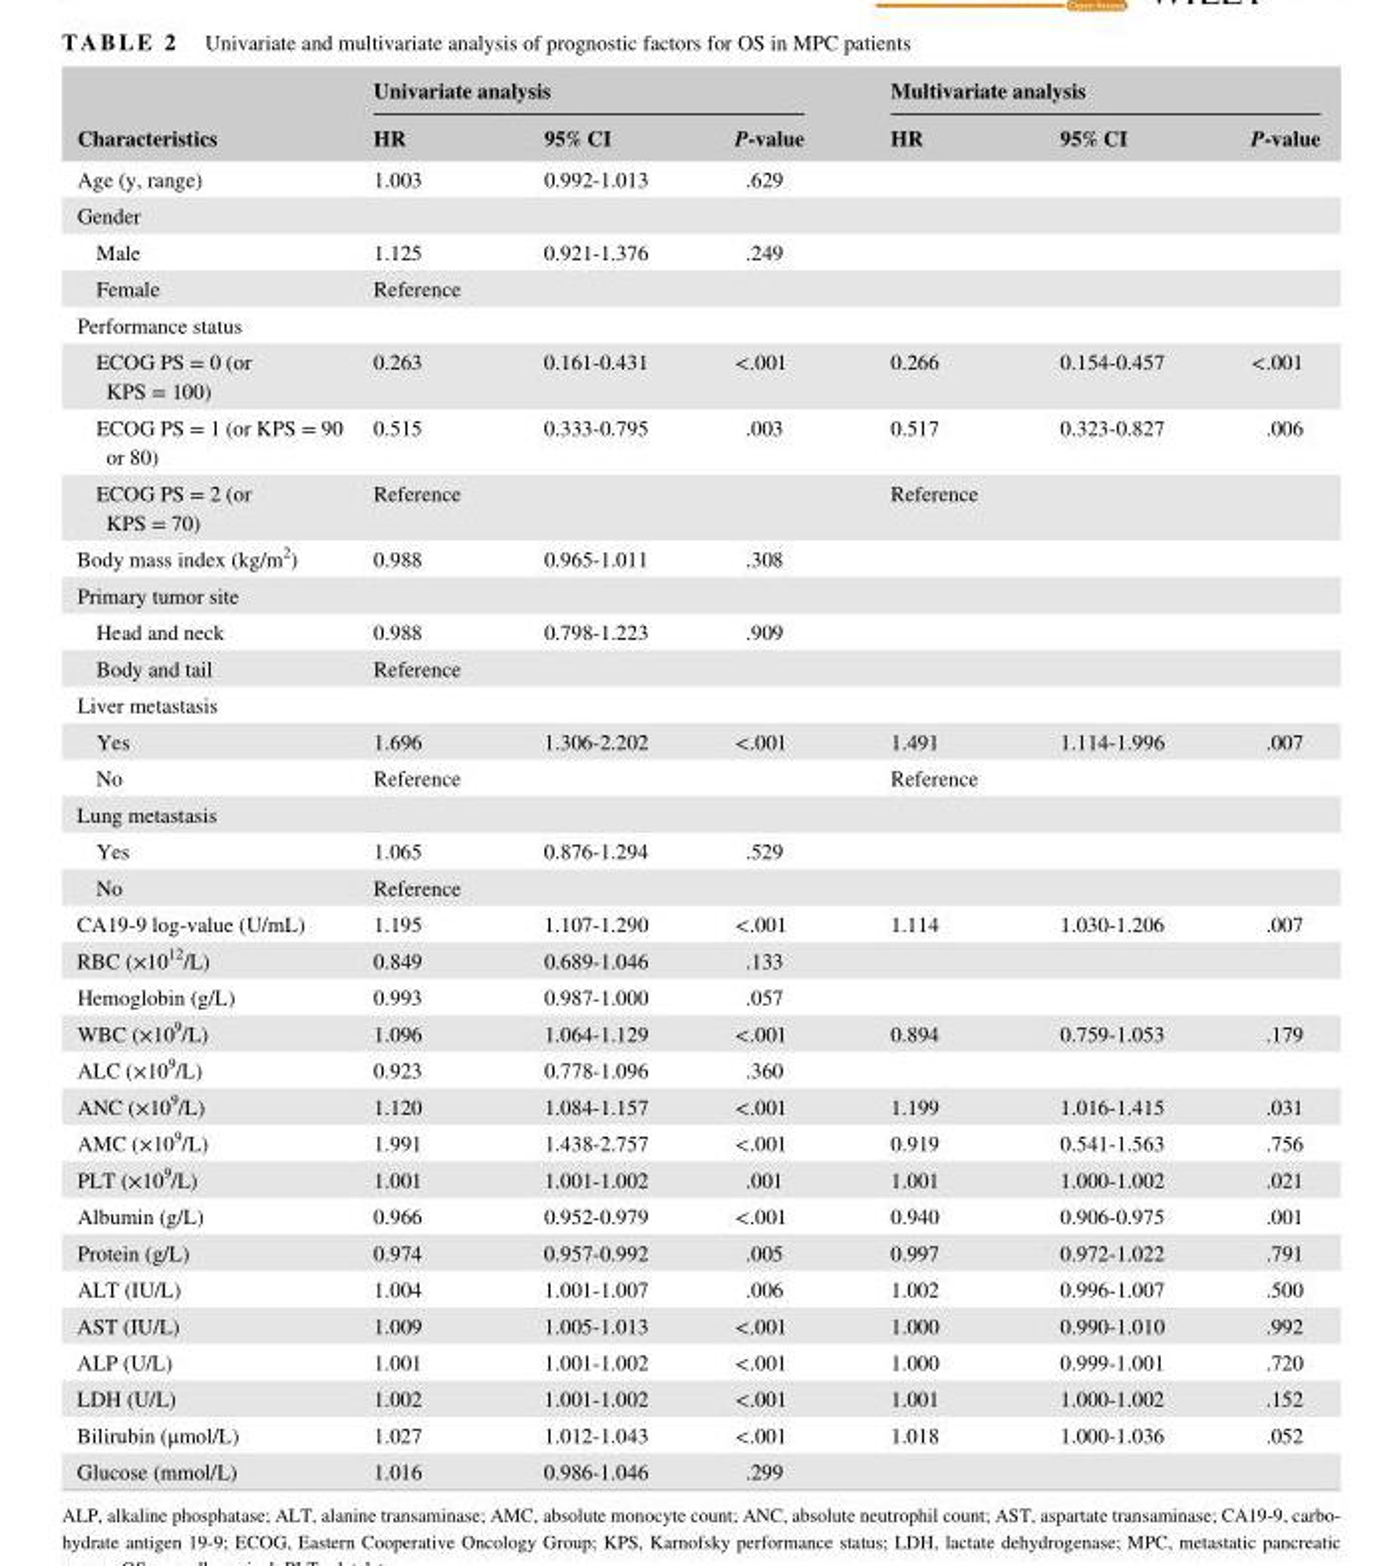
<table><thead><tr><td rowspan="2">Characteristics</td><td colspan="3">Univariate analysis</td><td colspan="3">Multivariate analysis</td></tr><tr><td>HR</td><td>95% CI</td><td>P- value</td><td>HR</td><td>95% CI</td><td>P- value</td></tr></thead><tbody><tr><td>Age (y, range)</td><td>1.003</td><td>0.992- 1.013</td><td>.629</td><td></td><td></td><td></td></tr><tr><td colspan="7">Gender</td></tr><tr><td>Male</td><td>1.125</td><td>0.921- 1.376</td><td>.249</td><td></td><td></td><td></td></tr><tr><td>Female</td><td>Reference</td><td></td><td></td><td></td><td></td><td></td></tr><tr><td colspan="7">Performance status</td></tr><tr><td>ECOG PS = 0 (or KPS = 100)</td><td>0.263</td><td>0.161- 0.431</td><td>&lt;.001</td><td>0.266</td><td>0.154- 0.457</td><td>&lt;.001</td></tr><tr><td>ECOG PS = 1 (or KPS = 90 or 80)</td><td>0.515</td><td>0.333- 0.795</td><td>.003</td><td>0.517</td><td>0.323- 0.827</td><td>.006</td></tr><tr><td>ECOG PS = 2 (or KPS = 70)</td><td>Reference</td><td></td><td></td><td>Reference</td><td></td><td></td></tr><tr><td>Body mass index (kg/m<sup>2</sup>)</td><td>0.988</td><td>0.965- 1.011</td><td>.308</td><td></td><td></td><td></td></tr><tr><td colspan="7">Primary tumor site</td></tr><tr><td>Head and neck</td><td>0.988</td><td>0.798- 1.223</td><td>.909</td><td></td><td></td><td></td></tr><tr><td>Body and tail</td><td>Reference</td><td></td><td></td><td></td><td></td><td></td></tr><tr><td colspan="7">Liver metastasis</td></tr><tr><td>Yes</td><td>1.696</td><td>1.306- 2.202</td><td>&lt;.001</td><td>1.491</td><td>1.114- 1.996</td><td>.007</td></tr><tr><td>No</td><td>Reference</td><td></td><td></td><td>Reference</td><td></td><td></td></tr><tr><td colspan="7">Lung metastasis</td></tr><tr><td>Yes</td><td>1.065</td><td>0.876- 1.294</td><td>.529</td><td></td><td></td><td></td></tr><tr><td>No</td><td>Reference</td><td></td><td></td><td></td><td></td><td></td></tr><tr><td>CA19- 9 log- value (U/mL)</td><td>1.195</td><td>1.107- 1.290</td><td>&lt;.001</td><td>1.114</td><td>1.030- 1.206</td><td>.007</td></tr><tr><td>RBC (×10<sup>12</sup>/L)</td><td>0.849</td><td>0.689- 1.046</td><td>.133</td><td></td><td></td><td></td></tr><tr><td>Hemoglobin (g/L)</td><td>0.993</td><td>0.987- 1.000</td><td>.057</td><td></td><td></td><td></td></tr><tr><td>WBC (×10<sup>9</sup>/L)</td><td>1.096</td><td>1.064- 1.129</td><td>&lt;.001</td><td>0.894</td><td>0.759- 1.053</td><td>.179</td></tr><tr><td>ALC (×10<sup>9</sup>/L)</td><td>0.923</td><td>0.778- 1.096</td><td>.360</td><td></td><td></td><td></td></tr><tr><td>ANC (×10<sup>9</sup>/L)</td><td>1.120</td><td>1.084- 1.157</td><td>&lt;.001</td><td>1.199</td><td>1.016- 1.415</td><td>.031</td></tr><tr><td>AMC (×10<sup>9</sup>/L)</td><td>1.991</td><td>1.438- 2.757</td><td>&lt;.001</td><td>0.919</td><td>0.541- 1.563</td><td>.756</td></tr><tr><td>PLT (×10<sup>9</sup>/L)</td><td>1.001</td><td>1.001- 1.002</td><td>.001</td><td>1.001</td><td>1.000- 1.002</td><td>.021</td></tr><tr><td>Albumin (g/L)</td><td>0.966</td><td>0.952- 0.979</td><td>&lt;.001</td><td>0.940</td><td>0.906- 0.975</td><td>.001</td></tr><tr><td>Protein (g/L)</td><td>0.974</td><td>0.957- 0.992</td><td>.005</td><td>0.997</td><td>0.972- 1.022</td><td>.791</td></tr><tr><td>ALT (IU/L)</td><td>1.004</td><td>1.001- 1.007</td><td>.006</td><td>1.002</td><td>0.996- 1.007</td><td>.500</td></tr><tr><td>AST (IU/L)</td><td>1.009</td><td>1.005- 1.013</td><td>&lt;.001</td><td>1.000</td><td>0.990- 1.010</td><td>.992</td></tr><tr><td>ALP (U/L)</td><td>1.001</td><td>1.001- 1.002</td><td>&lt;.001</td><td>1.000</td><td>0.999- 1.001</td><td>.720</td></tr><tr><td>LDH (U/L)</td><td>1.002</td><td>1.001- 1.002</td><td>&lt;.001</td><td>1.001</td><td>1.000- 1.002</td><td>.152</td></tr><tr><td>Bilirubin (μmol/L)</td><td>1.027</td><td>1.012- 1.043</td><td>&lt;.001</td><td>1.018</td><td>1.000- 1.036</td><td>.052</td></tr><tr><td>Glucose (mmol/L)</td><td>1.016</td><td>0.986- 1.046</td><td>.299</td><td></td><td></td><td></td></tr></tbody></table>